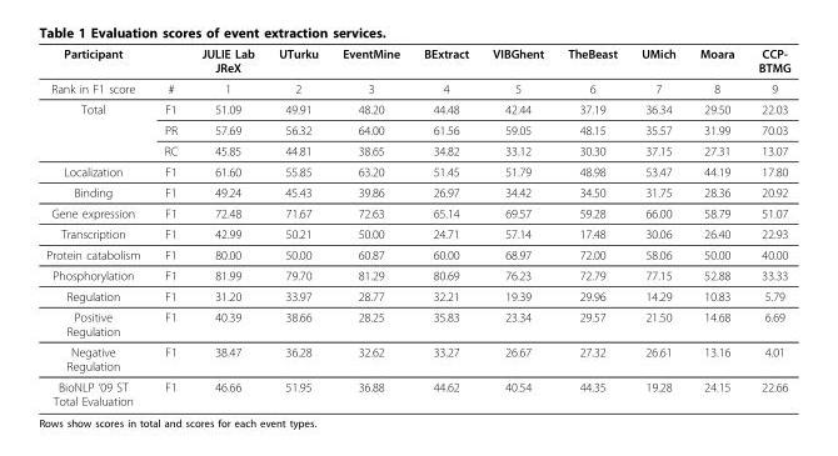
<table><thead><tr><td>Participant</td><td></td><td>JULIE Lab JReX</td><td>UTurku</td><td>EventMine</td><td>BExtract</td><td>VIBGhent</td><td>TheBeast</td><td>UMich</td><td>Moara</td><td>CCP- BTMG</td></tr></thead><tbody><tr><td>Rank in F1 score</td><td>#</td><td>1</td><td>2</td><td>3</td><td>4</td><td>5</td><td>6</td><td>7</td><td>8</td><td>9</td></tr><tr><td rowspan="3">Total</td><td>F1</td><td>51.09</td><td>49.91</td><td>48.20</td><td>44.48</td><td>42.44</td><td>37.19</td><td>36.34</td><td>29.50</td><td>22.03</td></tr><tr><td>PR</td><td>57.69</td><td>56.32</td><td>64.00</td><td>61.56</td><td>59.05</td><td>48.15</td><td>35.57</td><td>31.99</td><td>70.03</td></tr><tr><td>RC</td><td>45.85</td><td>44.81</td><td>38.65</td><td>34.82</td><td>33.12</td><td>30.30</td><td>37.15</td><td>27.31</td><td>13.07</td></tr><tr><td>Localization</td><td>F1</td><td>61.60</td><td>55.85</td><td>63.20</td><td>51.45</td><td>51.79</td><td>48.98</td><td>53.47</td><td>44.19</td><td>17.80</td></tr><tr><td>Binding</td><td>F1</td><td>49.24</td><td>45.43</td><td>39.86</td><td>26.97</td><td>34.42</td><td>34.50</td><td>31.75</td><td>28.36</td><td>20.92</td></tr><tr><td>Gene expression</td><td>F1</td><td>72.48</td><td>71.67</td><td>72.63</td><td>65.14</td><td>69.57</td><td>59.28</td><td>66.00</td><td>58.79</td><td>51.07</td></tr><tr><td>Transcription</td><td>F1</td><td>42.99</td><td>50.21</td><td>50.00</td><td>24.71</td><td>57.14</td><td>17.48</td><td>30.06</td><td>26.40</td><td>22.93</td></tr><tr><td>Protein catabolism</td><td>F1</td><td>80.00</td><td>50.00</td><td>60.87</td><td>60.00</td><td>68.97</td><td>72.00</td><td>58.06</td><td>50.00</td><td>40.00</td></tr><tr><td>Phosphorylation</td><td>F1</td><td>81.99</td><td>79.70</td><td>81.29</td><td>80.69</td><td>76.23</td><td>72.79</td><td>77.15</td><td>52.88</td><td>33.33</td></tr><tr><td>Regulation</td><td>F1</td><td>31.20</td><td>33.97</td><td>28.77</td><td>32.21</td><td>19.39</td><td>29.96</td><td>14.29</td><td>10.83</td><td>5.79</td></tr><tr><td>Positive Regulation</td><td>F1</td><td>40.39</td><td>38.66</td><td>28.25</td><td>35.83</td><td>23.34</td><td>29.57</td><td>21.50</td><td>14.68</td><td>6.69</td></tr><tr><td>Negative Regulation</td><td>F1</td><td>38.47</td><td>36.28</td><td>32.62</td><td>33.27</td><td>26.67</td><td>27.32</td><td>26.61</td><td>13.16</td><td>4.01</td></tr><tr><td>BioNLP ‘09 ST Total Evaluation</td><td>F1</td><td>46.66</td><td>51.95</td><td>36.88</td><td>44.62</td><td>40.54</td><td>44.35</td><td>19.28</td><td>24.15</td><td>22.66</td></tr></tbody></table>